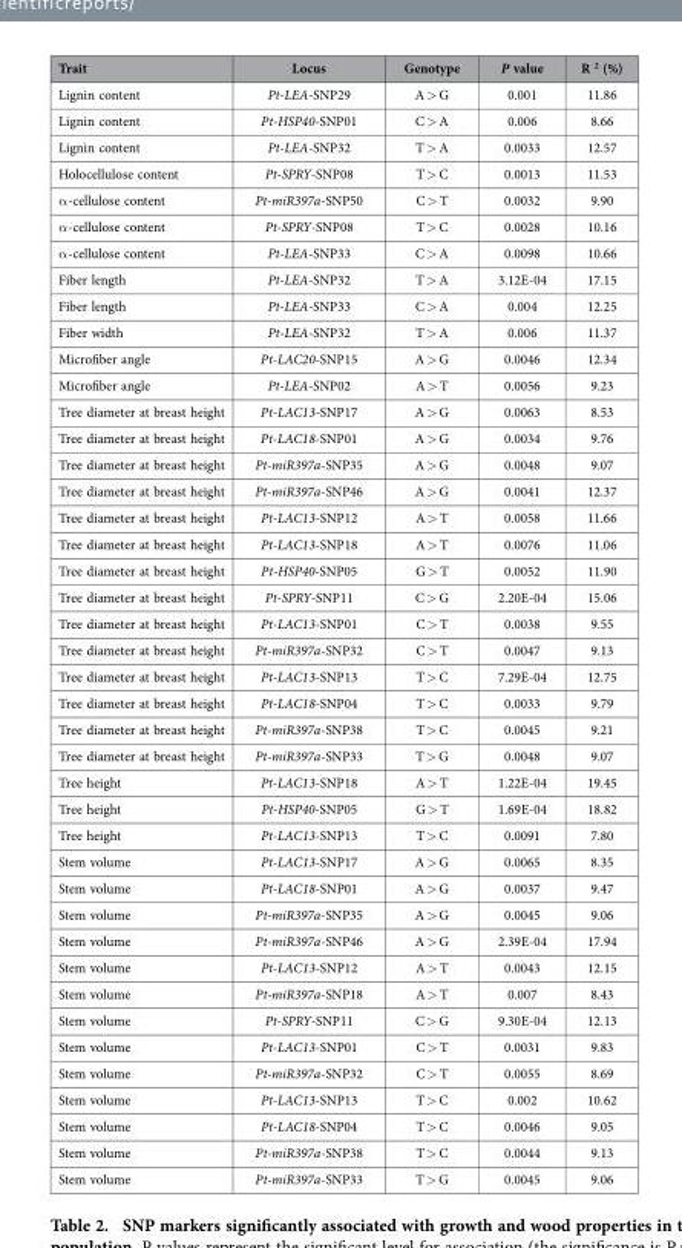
<table><thead><tr><td>Trait</td><td>Locus</td><td>Genotype</td><td>P value</td><td>R <sup>2</sup> (%)</td></tr></thead><tbody><tr><td>Lignin content</td><td>Pt-LEA-SNP29</td><td>A &gt; G</td><td>0.001</td><td>11.86</td></tr><tr><td>Lignin content</td><td>Pt-HSP40-SNP01</td><td>C &gt; A</td><td>0.006</td><td>8.66</td></tr><tr><td>Lignin content</td><td>Pt-LEA-SNP32</td><td>T &gt; A</td><td>0.0033</td><td>12.57</td></tr><tr><td>Holocellulose content</td><td>Pt-SPRY-SNP08</td><td>T &gt; C</td><td>0.0013</td><td>11.53</td></tr><tr><td>α -cellulose content</td><td>Pt-miR397a-SNP50</td><td>C &gt; T</td><td>0.0032</td><td>9.90</td></tr><tr><td>α -cellulose content</td><td>Pt-SPRY-SNP08</td><td>T &gt; C</td><td>0.0028</td><td>10.16</td></tr><tr><td>α -cellulose content</td><td>Pt-LEA-SNP33</td><td>C &gt; A</td><td>0.0098</td><td>10.66</td></tr><tr><td>Fiber length</td><td>Pt-LEA-SNP32</td><td>T &gt; A</td><td>3.12E-04</td><td>17.15</td></tr><tr><td>Fiber length</td><td>Pt-LEA-SNP33</td><td>C &gt; A</td><td>0.004</td><td>12.25</td></tr><tr><td>Fiber width</td><td>Pt-LEA-SNP32</td><td>T &gt; A</td><td>0.006</td><td>11.37</td></tr><tr><td>Microfiber angle</td><td>Pt-LAC20-SNP15</td><td>A &gt; G</td><td>0.0046</td><td>12.34</td></tr><tr><td>Microfiber angle</td><td>Pt-LEA-SNP02</td><td>A &gt; T</td><td>0.0056</td><td>9.23</td></tr><tr><td>Tree diameter at breast height</td><td>Pt-LAC13-SNP17</td><td>A &gt; G</td><td>0.0063</td><td>8.53</td></tr><tr><td>Tree diameter at breast height</td><td>Pt-LAC18-SNP01</td><td>A &gt; G</td><td>0.0034</td><td>9.76</td></tr><tr><td>Tree diameter at breast height</td><td>Pt-miR397a-SNP35</td><td>A &gt; G</td><td>0.0048</td><td>9.07</td></tr><tr><td>Tree diameter at breast height</td><td>Pt-miR397a-SNP46</td><td>A &gt; G</td><td>0.0041</td><td>12.37</td></tr><tr><td>Tree diameter at breast height</td><td>Pt-LAC13-SNP12</td><td>A &gt; T</td><td>0.0058</td><td>11.66</td></tr><tr><td>Tree diameter at breast height</td><td>Pt-LAC13-SNP18</td><td>A &gt; T</td><td>0.0076</td><td>11.06</td></tr><tr><td>Tree diameter at breast height</td><td>Pt-HSP40-SNP05</td><td>G &gt; T</td><td>0.0052</td><td>11.90</td></tr><tr><td>Tree diameter at breast height</td><td>Pt-SPRY-SNP11</td><td>C &gt; G</td><td>2.20E-04</td><td>15.06</td></tr><tr><td>Tree diameter at breast height</td><td>Pt-LAC13-SNP01</td><td>C &gt; T</td><td>0.0038</td><td>9.55</td></tr><tr><td>Tree diameter at breast height</td><td>Pt-miR397a-SNP32</td><td>C &gt; T</td><td>0.0047</td><td>9.13</td></tr><tr><td>Tree diameter at breast height</td><td>Pt-LAC13-SNP13</td><td>T &gt; C</td><td>7.29E-04</td><td>12.75</td></tr><tr><td>Tree diameter at breast height</td><td>Pt-LAC18-SNP04</td><td>T &gt; C</td><td>0.0033</td><td>9.79</td></tr><tr><td>Tree diameter at breast height</td><td>Pt-miR397a-SNP38</td><td>T &gt; C</td><td>0.0045</td><td>9.21</td></tr><tr><td>Tree diameter at breast height</td><td>Pt-miR397a-SNP33</td><td>T &gt; G</td><td>0.0048</td><td>9.07</td></tr><tr><td>Tree height</td><td>Pt-LAC13-SNP18</td><td>A &gt; T</td><td>1.22E-04</td><td>19.45</td></tr><tr><td>Tree height</td><td>Pt-HSP40-SNP05</td><td>G &gt; T</td><td>1.69E-04</td><td>18.82</td></tr><tr><td>Tree height</td><td>Pt-LAC13-SNP13</td><td>T &gt; C</td><td>0.0091</td><td>7.80</td></tr><tr><td>Stem volume</td><td>Pt-LAC13-SNP17</td><td>A &gt; G</td><td>0.0065</td><td>8.35</td></tr><tr><td>Stem volume</td><td>Pt-LAC18-SNP01</td><td>A &gt; G</td><td>0.0037</td><td>9.47</td></tr><tr><td>Stem volume</td><td>Pt-miR397a-SNP35</td><td>A &gt; G</td><td>0.0045</td><td>9.06</td></tr><tr><td>Stem volume</td><td>Pt-miR397a-SNP46</td><td>A &gt; G</td><td>2.39E-04</td><td>17.94</td></tr><tr><td>Stem volume</td><td>Pt-LAC13-SNP12</td><td>A &gt; T</td><td>0.0043</td><td>12.15</td></tr><tr><td>Stem volume</td><td>Pt-miR397a-SNP18</td><td>A &gt; T</td><td>0.007</td><td>8.43</td></tr><tr><td>Stem volume</td><td>Pt-SPRY-SNP11</td><td>C &gt; G</td><td>9.30E-04</td><td>12.13</td></tr><tr><td>Stem volume</td><td>Pt-LAC13-SNP01</td><td>C &gt; T</td><td>0.0031</td><td>9.83</td></tr><tr><td>Stem volume</td><td>Pt-miR397a-SNP32</td><td>C &gt; T</td><td>0.0055</td><td>8.69</td></tr><tr><td>Stem volume</td><td>Pt-LAC13-SNP13</td><td>T &gt; C</td><td>0.002</td><td>10.62</td></tr><tr><td>Stem volume</td><td>Pt-LAC18-SNP04</td><td>T &gt; C</td><td>0.0046</td><td>9.05</td></tr><tr><td>Stem volume</td><td>Pt-miR397a-SNP38</td><td>T &gt; C</td><td>0.0044</td><td>9.13</td></tr><tr><td>Stem volume</td><td>Pt-miR397a-SNP33</td><td>T &gt; G</td><td>0.0045</td><td>9.06</td></tr></tbody></table>